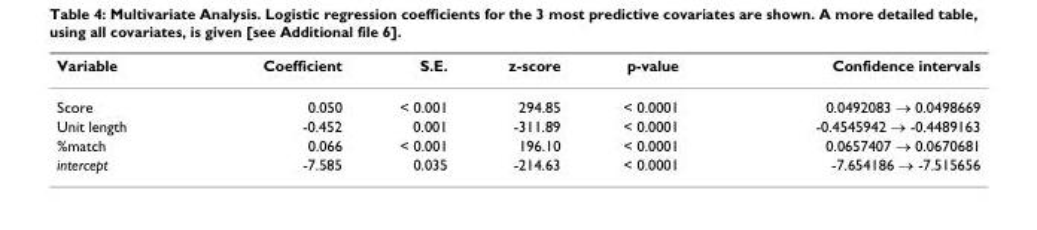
<table><thead><tr><td>Variable</td><td>Coefficient</td><td>S.E.</td><td>z-score</td><td>p-value</td><td>Confidence intervals</td></tr></thead><tbody><tr><td>Score</td><td>0.050</td><td>&lt; 0.001</td><td>294.85</td><td>&lt; 0.0001</td><td>0.0492083 → 0.0498669</td></tr><tr><td>Unit length</td><td>-0.452</td><td>0.001</td><td>-311.89</td><td>&lt; 0.0001</td><td>-0.4545942 → -0.4489163</td></tr><tr><td>%match</td><td>0.066</td><td>&lt; 0.001</td><td>196.10</td><td>&lt; 0.0001</td><td>0.0657407 → 0.0670681</td></tr><tr><td>intercept</td><td>-7.585</td><td>0.035</td><td>-214.63</td><td>&lt; 0.0001</td><td>-7.654186 → -7.515656</td></tr></tbody></table>